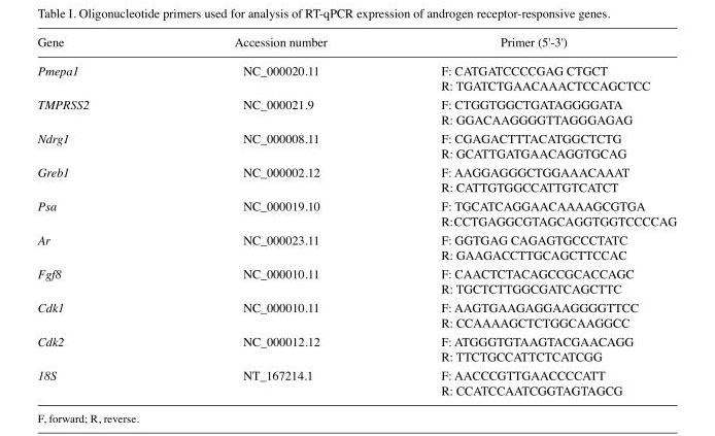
<table><thead><tr><td>Gene</td><td>Accession number</td><td>Primer (5&#x27;-3&#x27;)</td></tr></thead><tbody><tr><td>Pmepa1</td><td>NC_000020.11</td><td>F: CATGATCCCCGAG CTGCT R: TGATCTGAACAAACTCCAGCTCC</td></tr><tr><td>TMPRSS2</td><td>NC_000021.9</td><td>F: CTGGTGGCTGATAGGGGATA R: GGACAAGGGGTTAGGGAGAG</td></tr><tr><td>Ndrg1</td><td>NC_000008.11</td><td>F: CGAGACTTTACATGGCTCTG R: GCATTGATGAACAGGTGCAG</td></tr><tr><td>Greb1</td><td>NC_000002.12</td><td>F: AAGGAGGGCTGGAAACAAAT R: CATTGTGGCCATTGTCATCT</td></tr><tr><td>Psa</td><td>NC_000019.10</td><td>F: TGCATCAGGAACAAAAGCGTGA R: CCTGAGGCGTAGCAGGTGGTCCCCAG</td></tr><tr><td>Ar</td><td>NC_000023.11</td><td>F: GGTGAG CAGAGTGCCCTATC R: GAAGACCTTGCAGCTTCCAC</td></tr><tr><td>Fgf8</td><td>NC_000010.11</td><td>F: CAACTCTACAGCCGCACCAGC R: TGCTCTTGGCGATCAGCTTC</td></tr><tr><td>Cdk1</td><td>NC_000010.11</td><td>F: AAGTGAAGAGGAAGGGGTTCC R: CCAAAAGCTCTGGCAAGGCC</td></tr><tr><td>Cdk2</td><td>NC_000012.12</td><td>F: ATGGGTGTAAGTACGAACAGG R: TTCTGCCATTCTCATCGG</td></tr><tr><td>18S</td><td>NT_167214.1</td><td>F: AACCCGTTGAACCCCATT R: CCATCCAATCGGTAGTAGCG</td></tr></tbody></table>